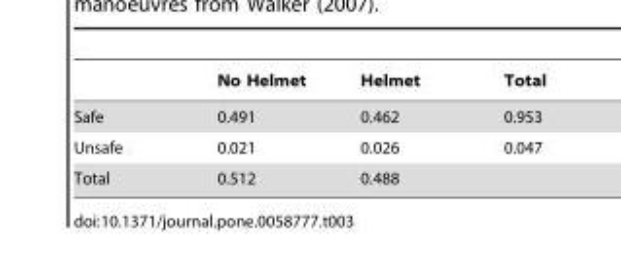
<table><thead><tr><td></td><td>No Helmet</td><td>Helmet</td><td>Total</td></tr></thead><tbody><tr><td>Safe</td><td>0.491</td><td>0.462</td><td>0.953</td></tr><tr><td>Unsafe</td><td>0.021</td><td>0.026</td><td>0.047</td></tr><tr><td>Total</td><td>0.512</td><td>0.488</td><td></td></tr></tbody></table>